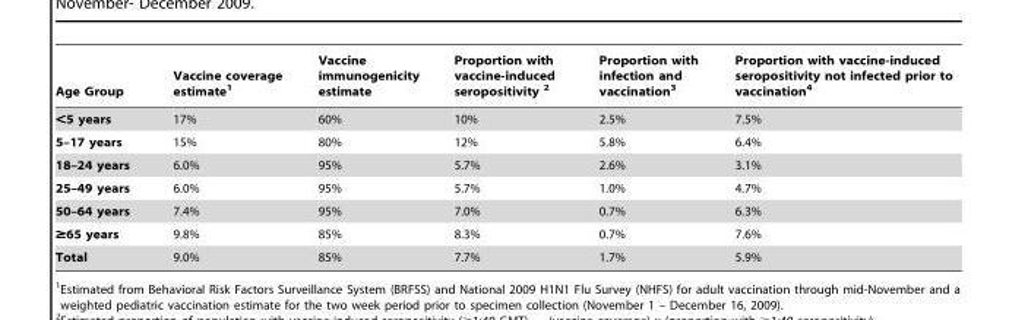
<table><thead><tr><td>Age Group</td><td>Vaccine coverage estimate<sup>1</sup></td><td>Vaccine immunogenicity estimate</td><td>Proportion with vaccine-induced seropositivity 2</td><td>Proportion with infection and vaccination<sup>3</sup></td><td>Proportion with vaccine-induced seropositivity not infected prior to vaccination<sup>4</sup></td></tr></thead><tbody><tr><td>&lt;5 years</td><td>17%</td><td>60%</td><td>10%</td><td>2.5%</td><td>7.5%</td></tr><tr><td>5–17 years</td><td>15%</td><td>80%</td><td>12%</td><td>5.8%</td><td>6.4%</td></tr><tr><td>18–24 years</td><td>6.0%</td><td>95%</td><td>5.7%</td><td>2.6%</td><td>3.1%</td></tr><tr><td>25–49 years</td><td>6.0%</td><td>95%</td><td>5.7%</td><td>1.0%</td><td>4.7%</td></tr><tr><td>50–64 years</td><td>7.4%</td><td>95%</td><td>7.0%</td><td>0.7%</td><td>6.3%</td></tr><tr><td>≥65 years</td><td>9.8%</td><td>85%</td><td>8.3%</td><td>0.7%</td><td>7.6%</td></tr><tr><td>Total</td><td>9.0%</td><td>85%</td><td>7.7%</td><td>1.7%</td><td>5.9%</td></tr></tbody></table>